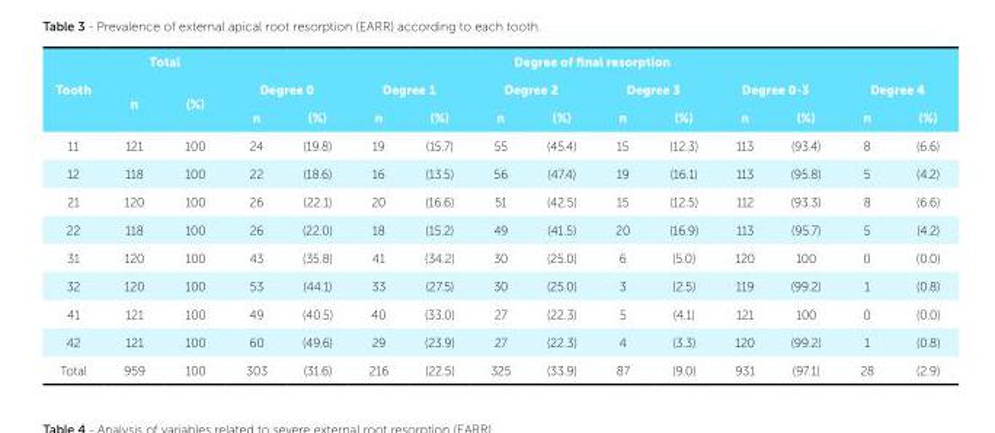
<table><thead><tr><td rowspan="3">Tooth</td><td colspan="2">Total</td><td colspan="12">Degree of final resorption</td></tr><tr><td rowspan="2">n</td><td rowspan="2">(%)</td><td colspan="2">Degree 0</td><td colspan="2">Degree 1</td><td colspan="2">Degree 2</td><td colspan="2">Degree 3</td><td colspan="2">Degree 0-3</td><td colspan="2">Degree 4</td></tr><tr><td>n</td><td>(%)</td><td>n</td><td>(%)</td><td>n</td><td>(%)</td><td>n</td><td>(%)</td><td>n</td><td>(%)</td><td>n</td><td>(%)</td></tr></thead><tbody><tr><td>11</td><td>121</td><td>100</td><td>24</td><td>(19.8)</td><td>19</td><td>(15.7)</td><td>55</td><td>(45.4)</td><td>15</td><td>(12.3)</td><td>113</td><td>(93.4)</td><td>8</td><td>(6.6)</td></tr><tr><td>12</td><td>118</td><td>100</td><td>22</td><td>(18.6)</td><td>16</td><td>(13.5)</td><td>56</td><td>(47.4)</td><td>19</td><td>(16.1)</td><td>113</td><td>(95.8)</td><td>5</td><td>(4.2)</td></tr><tr><td>21</td><td>120</td><td>100</td><td>26</td><td>(22.1)</td><td>20</td><td>(16.6)</td><td>51</td><td>(42.5)</td><td>15</td><td>(12.5)</td><td>112</td><td>(93.3)</td><td>8</td><td>(6.6)</td></tr><tr><td>22</td><td>118</td><td>100</td><td>26</td><td>(22.0)</td><td>18</td><td>(15.2)</td><td>49</td><td>(41.5)</td><td>20</td><td>(16.9)</td><td>113</td><td>(95.7)</td><td>5</td><td>(4.2)</td></tr><tr><td>31</td><td>120</td><td>100</td><td>43</td><td>(35.8)</td><td>41</td><td>(34.2)</td><td>30</td><td>(25.0)</td><td>6</td><td>(5.0)</td><td>120</td><td>100</td><td>0</td><td>(0.0)</td></tr><tr><td>32</td><td>120</td><td>100</td><td>53</td><td>(44.1)</td><td>33</td><td>(27.5)</td><td>30</td><td>(25.0)</td><td>3</td><td>(2.5)</td><td>119</td><td>(99.2)</td><td>1</td><td>(0.8)</td></tr><tr><td>41</td><td>121</td><td>100</td><td>49</td><td>(40.5)</td><td>40</td><td>(33.0)</td><td>27</td><td>(22.3)</td><td>5</td><td>(4.1)</td><td>121</td><td>100</td><td>0</td><td>(0.0)</td></tr><tr><td>42</td><td>121</td><td>100</td><td>60</td><td>(49.6)</td><td>29</td><td>(23.9)</td><td>27</td><td>(22.3)</td><td>4</td><td>(3.3)</td><td>120</td><td>(99.2)</td><td>1</td><td>(0.8)</td></tr><tr><td>Total</td><td>959</td><td>100</td><td>303</td><td>(31.6)</td><td>216</td><td>(22.5)</td><td>325</td><td>(33.9)</td><td>87</td><td>(9.0)</td><td>931</td><td>(97.1)</td><td>28</td><td>(2.9)</td></tr></tbody></table>